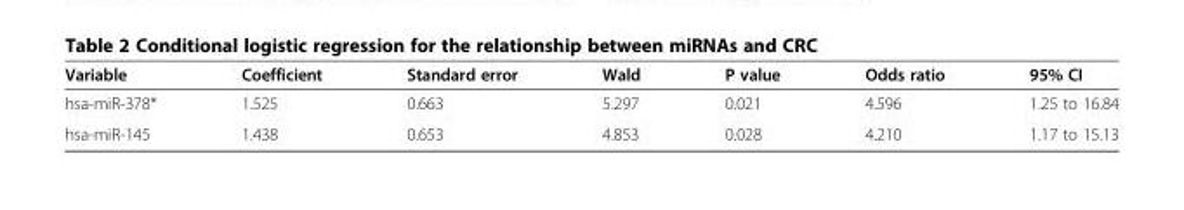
<table><thead><tr><td>Variable</td><td>Coefficient</td><td>Standard error</td><td>Wald</td><td>P value</td><td>Odds ratio</td><td>95% CI</td></tr></thead><tbody><tr><td>hsa-miR-378*</td><td>1.525</td><td>0.663</td><td>5.297</td><td>0.021</td><td>4.596</td><td>1.25 to 16.84</td></tr><tr><td>hsa-miR-145</td><td>1.438</td><td>0.653</td><td>4.853</td><td>0.028</td><td>4.210</td><td>1.17 to 15.13</td></tr></tbody></table>